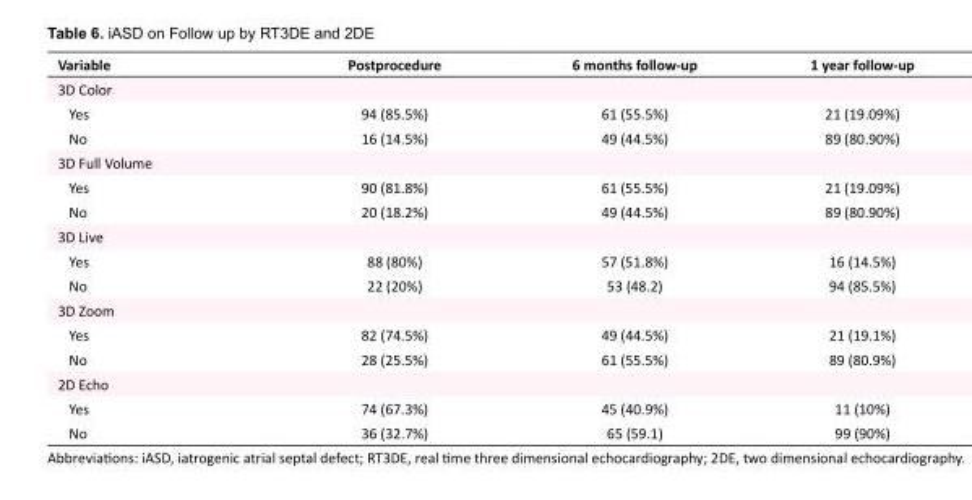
<table><tbody><tr><td>Variable</td><td>Postprocedure</td><td>6 months follow-up</td><td>1 year follow-up</td></tr><tr><td colspan="4">3D Color</td></tr><tr><td>Yes</td><td>94 (85.5%)</td><td>61 (55.5%)</td><td>21 (19.09%)</td></tr><tr><td>No</td><td>16 (14.5%)</td><td>49 (44.5%)</td><td>89 (80.90%)</td></tr><tr><td colspan="4">3D Full Volume</td></tr><tr><td>Yes</td><td>90 (81.8%)</td><td>61 (55.5%)</td><td>21 (19.09%)</td></tr><tr><td>No</td><td>20 (18.2%)</td><td>49 (44.5%)</td><td>89 (80.90%)</td></tr><tr><td colspan="4">3D Live</td></tr><tr><td>Yes</td><td>88 (80%)</td><td>57 (51.8%)</td><td>16 (14.5%)</td></tr><tr><td>No</td><td>22 (20%)</td><td>53 (48.2)</td><td>94 (85.5%)</td></tr><tr><td colspan="4">3D Zoom</td></tr><tr><td>Yes</td><td>82 (74.5%)</td><td>49 (44.5%)</td><td>21 (19.1%)</td></tr><tr><td>No</td><td>28 (25.5%)</td><td>61 (55.5%)</td><td>89 (80.9%)</td></tr><tr><td colspan="4">2D Echo</td></tr><tr><td>Yes</td><td>74 (67.3%)</td><td>45 (40.9%)</td><td>11 (10%)</td></tr><tr><td>No</td><td>36 (32.7%)</td><td>65 (59.1)</td><td>99 (90%)</td></tr></tbody></table>